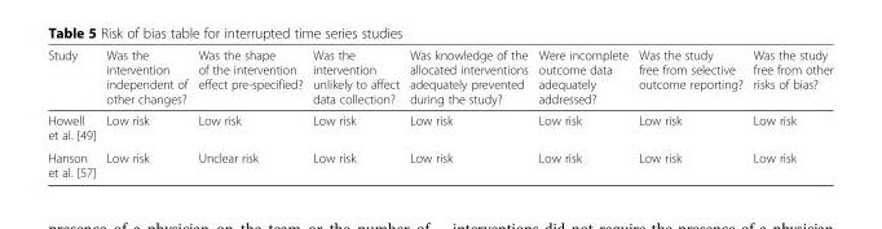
<table><thead><tr><td>Study</td><td>Was the intervention independent of other changes?</td><td>Was the shape of the intervention effect pre-specified?</td><td>Was the intervention unlikely to affect data collection?</td><td>Was knowledge of the allocated interventions adequately prevented during the study?</td><td>Were incomplete outcome data adequately addressed?</td><td>Was the study free from selective outcome reporting?</td><td>Was the study free from other risks of bias?</td></tr></thead><tbody><tr><td>Howell et al. [49]</td><td>Low risk</td><td>Low risk</td><td>Low risk</td><td>Low risk</td><td>Low risk</td><td>Low risk</td><td>Low risk</td></tr><tr><td>Hanson et al. [57]</td><td>Low risk</td><td>Unclear risk</td><td>Low risk</td><td>Low risk</td><td>Low risk</td><td>Low risk</td><td>Low risk</td></tr></tbody></table>